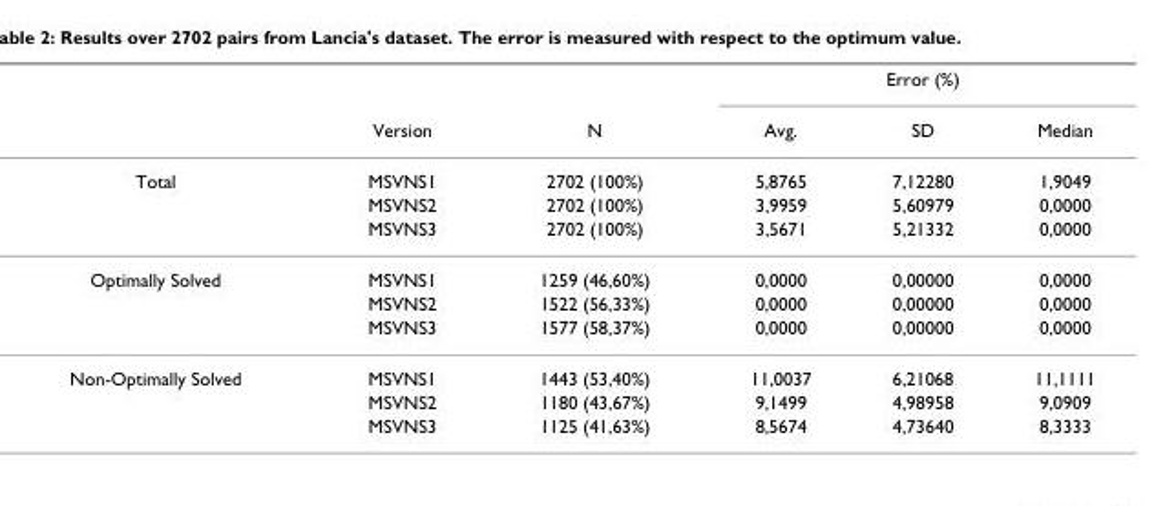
<table><thead><tr><td rowspan="2"></td><td rowspan="2">Version</td><td rowspan="2">N</td><td colspan="3">Error (%)</td></tr><tr><td>Avg.</td><td>SD</td><td>Median</td></tr></thead><tbody><tr><td rowspan="3">Total</td><td>MSVNS1</td><td>2702 (100%)</td><td>5,8765</td><td>7,12280</td><td>1,9049</td></tr><tr><td>MSVNS2</td><td>2702 (100%)</td><td>3,9959</td><td>5,60979</td><td>0,0000</td></tr><tr><td>MSVNS3</td><td>2702 (100%)</td><td>3,5671</td><td>5,21332</td><td>0,0000</td></tr><tr><td rowspan="3">Optimally Solved</td><td>MSVNS1</td><td>1259 (46,60%)</td><td>0,0000</td><td>0,00000</td><td>0,0000</td></tr><tr><td>MSVNS2</td><td>1522 (56,33%)</td><td>0,0000</td><td>0,00000</td><td>0,0000</td></tr><tr><td>MSVNS3</td><td>1577 (58,37%)</td><td>0,0000</td><td>0,00000</td><td>0,0000</td></tr><tr><td rowspan="3">Non-Optimally Solved</td><td>MSVNS1</td><td>1443 (53,40%)</td><td>11,0037</td><td>6,21068</td><td>11,1111</td></tr><tr><td>MSVNS2</td><td>1180 (43,67%)</td><td>9,1499</td><td>4,98958</td><td>9,0909</td></tr><tr><td>MSVNS3</td><td>1125 (41,63%)</td><td>8,5674</td><td>4,73640</td><td>8,3333</td></tr></tbody></table>